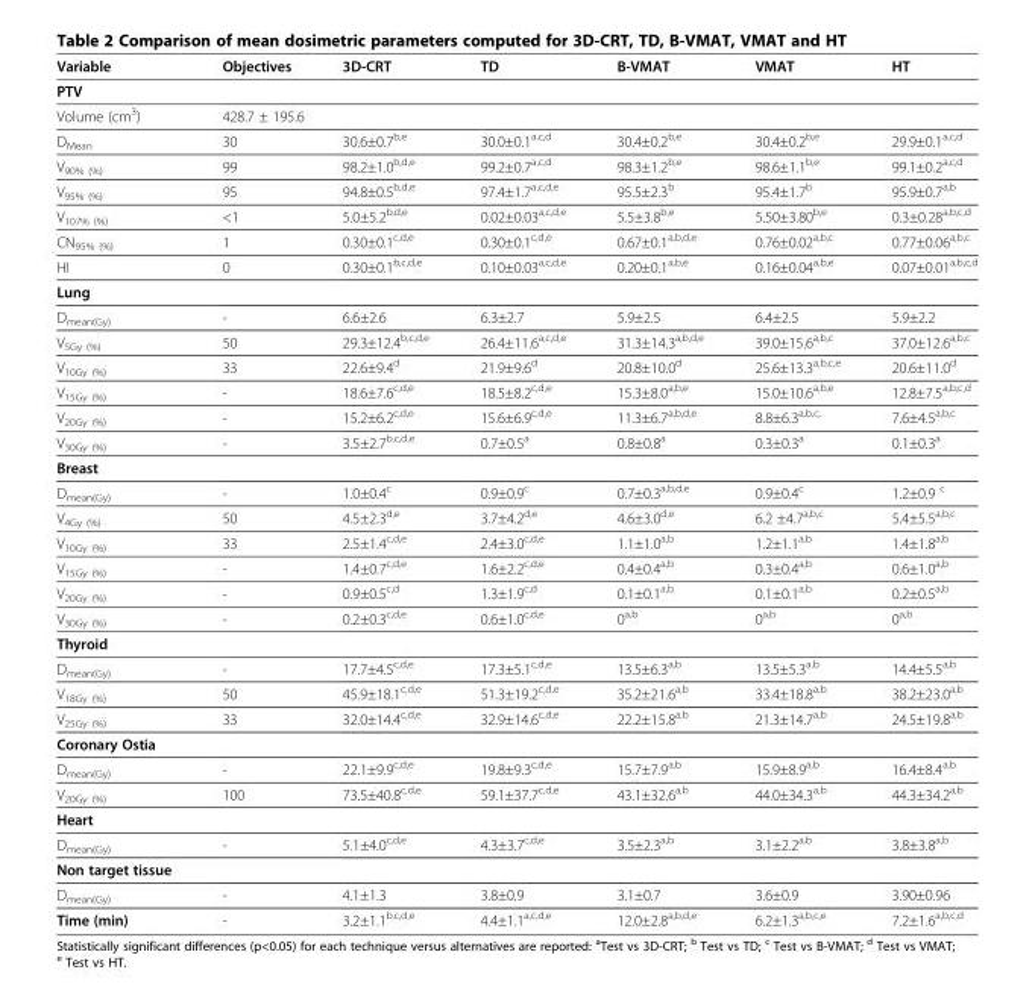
<table><thead><tr><td>Variable</td><td>Objectives</td><td>3D-CRT</td><td>TD</td><td>B-VMAT</td><td>VMAT</td><td>HT</td></tr></thead><tbody><tr><td colspan="7">PTV</td></tr><tr><td>Volume (cm<sup>3</sup>)</td><td colspan="6">428.7 ± 195.6</td></tr><tr><td>D<sub>Mean</sub></td><td>30</td><td>30.6±0.7<sup>b,e</sup></td><td>30.0±0.1<sup>a,c,d</sup></td><td>30.4±0.2<sup>b,e</sup></td><td>30.4±0.2<sup>b,e</sup></td><td>29.9±0.1<sup>a,c,d</sup></td></tr><tr><td>V<sub>90% (%)</sub></td><td>99</td><td>98.2±1.0<sup>b,d,e</sup></td><td>99.2±0.7<sup>a,c,d</sup></td><td>98.3±1.2<sup>b,e</sup></td><td>98.6±1.1<sup>b,e</sup></td><td>99.1±0.2<sup>a,c,d</sup></td></tr><tr><td>V<sub>95% (%)</sub></td><td>95</td><td>94.8±0.5<sup>b,d,e</sup></td><td>97.4±1.7<sup>a,c,d,e</sup></td><td>95.5±2.3<sup>b</sup></td><td>95.4±1.7<sup>b</sup></td><td>95.9±0.7<sup>a,b</sup></td></tr><tr><td>V<sub>107% (%)</sub></td><td>&lt;1</td><td>5.0±5.2<sup>b,d,e</sup></td><td>0.02±0.03<sup>a,c,d,e</sup></td><td>5.5±3.8<sup>b,e</sup></td><td>5.50±3.80<sup>b,e</sup></td><td>0.3±0.28<sup>a,b,c,d</sup></td></tr><tr><td>CN<sub>95% (%)</sub></td><td>1</td><td>0.30±0.1<sup>c,d,e</sup></td><td>0.30±0.1<sup>c,d,e</sup></td><td>0.67±0.1<sup>a,b,d,e</sup></td><td>0.76±0.02<sup>a,b,c</sup></td><td>0.77±0.06<sup>a,b,c</sup></td></tr><tr><td>HI</td><td>0</td><td>0.30±0.1<sup>b,c,d,e</sup></td><td>0.10±0.03<sup>a,c,d,e</sup></td><td>0.20±0.1<sup>a,b,e</sup></td><td>0.16±0.04<sup>a,b,e</sup></td><td>0.07±0.01<sup>a,b,c,d</sup></td></tr><tr><td colspan="7">Lung</td></tr><tr><td>D<sub>mean(Gy)</sub></td><td>-</td><td>6.6±2.6</td><td>6.3±2.7</td><td>5.9±2.5</td><td>6.4±2.5</td><td>5.9±2.2</td></tr><tr><td>V<sub>5Gy (%)</sub></td><td>50</td><td>29.3±12.4<sup>b,c,d,e</sup></td><td>26.4±11.6<sup>a,c,d,e</sup></td><td>31.3±14.3<sup>a,b,d,e</sup></td><td>39.0±15.6<sup>a,b,c</sup></td><td>37.0±12.6<sup>a,b,c</sup></td></tr><tr><td>V<sub>10Gy (%)</sub></td><td>33</td><td>22.6±9.4<sup>d</sup></td><td>21.9±9.6<sup>d</sup></td><td>20.8±10.0<sup>d</sup></td><td>25.6±13.3<sup>a,b,c,e</sup></td><td>20.6±11.0<sup>d</sup></td></tr><tr><td>V<sub>15Gy (%)</sub></td><td>-</td><td>18.6±7.6<sup>c,d,e</sup></td><td>18.5±8.2<sup>c,d,e</sup></td><td>15.3±8.0<sup>a,b,e</sup></td><td>15.0±10.6<sup>a,b,e</sup></td><td>12.8±7.5<sup>a,b,c,d</sup></td></tr><tr><td>V<sub>20Gy (%)</sub></td><td>-</td><td>15.2±6.2<sup>c,d,e</sup></td><td>15.6±6.9<sup>c,d,e</sup></td><td>11.3±6.7<sup>a,b,d,e</sup></td><td>8.8±6.3<sup>a,b,c,</sup></td><td>7.6±4.5<sup>a,b,c</sup></td></tr><tr><td>V<sub>30Gy (%)</sub></td><td>-</td><td>3.5±2.7<sup>b,c,d,e</sup></td><td>0.7±0.5<sup>a</sup></td><td>0.8±0.8<sup>a</sup></td><td>0.3±0.3<sup>a</sup></td><td>0.1±0.3<sup>a</sup></td></tr><tr><td colspan="7">Breast</td></tr><tr><td>D<sub>mean(Gy)</sub></td><td>-</td><td>1.0±0.4<sup>c</sup></td><td>0.9±0.9<sup>c</sup></td><td>0.7±0.3<sup>a,b,d,e</sup></td><td>0.9±0.4<sup>c</sup></td><td>1.2±0.9 <sup>c</sup></td></tr><tr><td>V<sub>4Gy (%)</sub></td><td>50</td><td>4.5±2.3<sup>d,e</sup></td><td>3.7±4.2<sup>d,e</sup></td><td>4.6±3.0<sup>d,e</sup></td><td>6.2 ±4.7<sup>a,b,c</sup></td><td>5.4±5.5<sup>a,b,c</sup></td></tr><tr><td>V<sub>10Gy (%)</sub></td><td>33</td><td>2.5±1.4<sup>c,d,e</sup></td><td>2.4±3.0<sup>c,d,e</sup></td><td>1.1±1.0<sup>a,b</sup></td><td>1.2±1.1<sup>a,b</sup></td><td>1.4±1.8<sup>a,b</sup></td></tr><tr><td>V<sub>15Gy (%)</sub></td><td>-</td><td>1.4±0.7<sup>c,d,e</sup></td><td>1.6±2.2<sup>c,d,e</sup></td><td>0.4±0.4<sup>a,b</sup></td><td>0.3±0.4<sup>a,b</sup></td><td>0.6±1.0<sup>a,b</sup></td></tr><tr><td>V<sub>20Gy (%)</sub></td><td>-</td><td>0.9±0.5<sup>c,d</sup></td><td>1.3±1.9<sup>c,d</sup></td><td>0.1±0.1<sup>a,b</sup></td><td>0.1±0.1<sup>a,b</sup></td><td>0.2±0.5<sup>a,b</sup></td></tr><tr><td>V<sub>30Gy (%)</sub></td><td>-</td><td>0.2±0.3<sup>c,d,e</sup></td><td>0.6±1.0<sup>c,d,e</sup></td><td>0<sup>a,b</sup></td><td>0<sup>a,b</sup></td><td>0<sup>a,b</sup></td></tr><tr><td colspan="7">Thyroid</td></tr><tr><td>D<sub>mean(Gy)</sub></td><td>-</td><td>17.7±4.5<sup>c,d,e</sup></td><td>17.3±5.1<sup>c,d,e</sup></td><td>13.5±6.3<sup>a,b</sup></td><td>13.5±5.3<sup>a,b</sup></td><td>14.4±5.5<sup>a,b</sup></td></tr><tr><td>V<sub>18Gy (%)</sub></td><td>50</td><td>45.9±18.1<sup>c,d,e</sup></td><td>51.3±19.2<sup>c,d,e</sup></td><td>35.2±21.6<sup>a,b</sup></td><td>33.4±18.8<sup>a,b</sup></td><td>38.2±23.0<sup>a,b</sup></td></tr><tr><td>V<sub>25Gy (%)</sub></td><td>33</td><td>32.0±14.4<sup>c,d,e</sup></td><td>32.9±14.6<sup>c,d,e</sup></td><td>22.2±15.8<sup>a,b</sup></td><td>21.3±14.7<sup>a,b</sup></td><td>24.5±19.8<sup>a,b</sup></td></tr><tr><td colspan="7">Coronary Ostia</td></tr><tr><td>D<sub>mean(Gy)</sub></td><td>-</td><td>22.1±9.9<sup>c,d,e</sup></td><td>19.8±9.3<sup>c,d,e</sup></td><td>15.7±7.9<sup>a,b</sup></td><td>15.9±8.9<sup>a,b</sup></td><td>16.4±8.4<sup>a,b</sup></td></tr><tr><td>V<sub>20Gy (%)</sub></td><td>100</td><td>73.5±40.8<sup>c,d,e</sup></td><td>59.1±37.7<sup>c,d,e</sup></td><td>43.1±32.6<sup>a,b</sup></td><td>44.0±34.3<sup>a,b</sup></td><td>44.3±34.2<sup>a,b</sup></td></tr><tr><td colspan="7">Heart</td></tr><tr><td>D<sub>mean(Gy)</sub></td><td>-</td><td>5.1±4.0<sup>c,d,e</sup></td><td>4.3±3.7<sup>c,d,e</sup></td><td>3.5±2.3<sup>a,b</sup></td><td>3.1±2.2<sup>a,b</sup></td><td>3.8±3.8<sup>a,b</sup></td></tr><tr><td colspan="7">Non target tissue</td></tr><tr><td>D<sub>mean(Gy)</sub></td><td>-</td><td>4.1±1.3</td><td>3.8±0.9</td><td>3.1±0.7</td><td>3.6±0.9</td><td>3.90±0.96</td></tr><tr><td>Time (min)</td><td>-</td><td>3.2±1.1<sup>b,c,d,e</sup></td><td>4.4±1.1<sup>a,c,d,e</sup></td><td>12.0±2.8<sup>a,b,d,e</sup></td><td>6.2±1.3<sup>a,b,c,e</sup></td><td>7.2±1.6<sup>a,b,c,d</sup></td></tr></tbody></table>